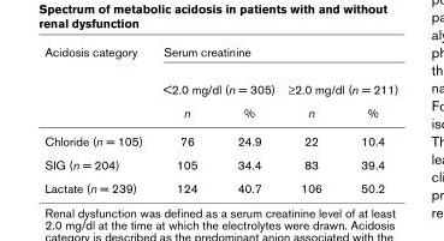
<table><thead><tr><td rowspan="3">Acidosis category</td><td colspan="4">Serum creatinine</td></tr><tr><td colspan="2">&lt;2.0 mg/dl (n = 305)</td><td colspan="2">≥2.0 mg/dl (n = 211)</td></tr><tr><td>n</td><td>%</td><td>n</td><td>%</td></tr></thead><tbody><tr><td>Chloride (n = 105)</td><td>76</td><td>24.9</td><td>22</td><td>10.4</td></tr><tr><td>SIG (n = 204)</td><td>105</td><td>34.4</td><td>83</td><td>39.4</td></tr><tr><td>Lactate (n = 239)</td><td>124</td><td>40.7</td><td>106</td><td>50.2</td></tr></tbody></table>